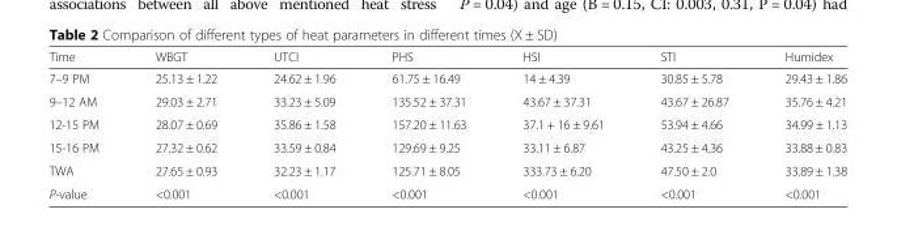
<table><thead><tr><td>Time</td><td>WBGT</td><td>UTCI</td><td>PHS</td><td>HSI</td><td>STI</td><td>Humidex</td></tr></thead><tbody><tr><td>7–9 PM</td><td>25.13 ± 1.22</td><td>24.62 ± 1.96</td><td>61.75 ± 16.49</td><td>14 ± 4.39</td><td>30.85 ± 5.78</td><td>29.43 ± 1.86</td></tr><tr><td>9–12 AM</td><td>29.03 ± 2.71</td><td>33.23 ± 5.09</td><td>135.52 ± 37.31</td><td>43.67 ± 37.31</td><td>43.67 ± 26.87</td><td>35.76 ± 4.21</td></tr><tr><td>12-15 PM</td><td>28.07 ± 0.69</td><td>35.86 ± 1.58</td><td>157.20 ± 11.63</td><td>37.1 + 16 ± 9.61</td><td>53.94 ± 4.66</td><td>34.99 ± 1.13</td></tr><tr><td>15-16 PM</td><td>27.32 ± 0.62</td><td>33.59 ± 0.84</td><td>129.69 ± 9.25</td><td>33.11 ± 6.87</td><td>43.25 ± 4.36</td><td>33.88 ± 0.83</td></tr><tr><td>TWA</td><td>27.65 ± 0.93</td><td>32.23 ± 1.17</td><td>125.71 ± 8.05</td><td>333.73 ± 6.20</td><td>47.50 ± 2.0</td><td>33.89 ± 1.38</td></tr><tr><td>P-value</td><td>&lt;0.001</td><td>&lt;0.001</td><td>&lt;0.001</td><td>&lt;0.001</td><td>&lt;0.001</td><td>&lt;0.001</td></tr></tbody></table>